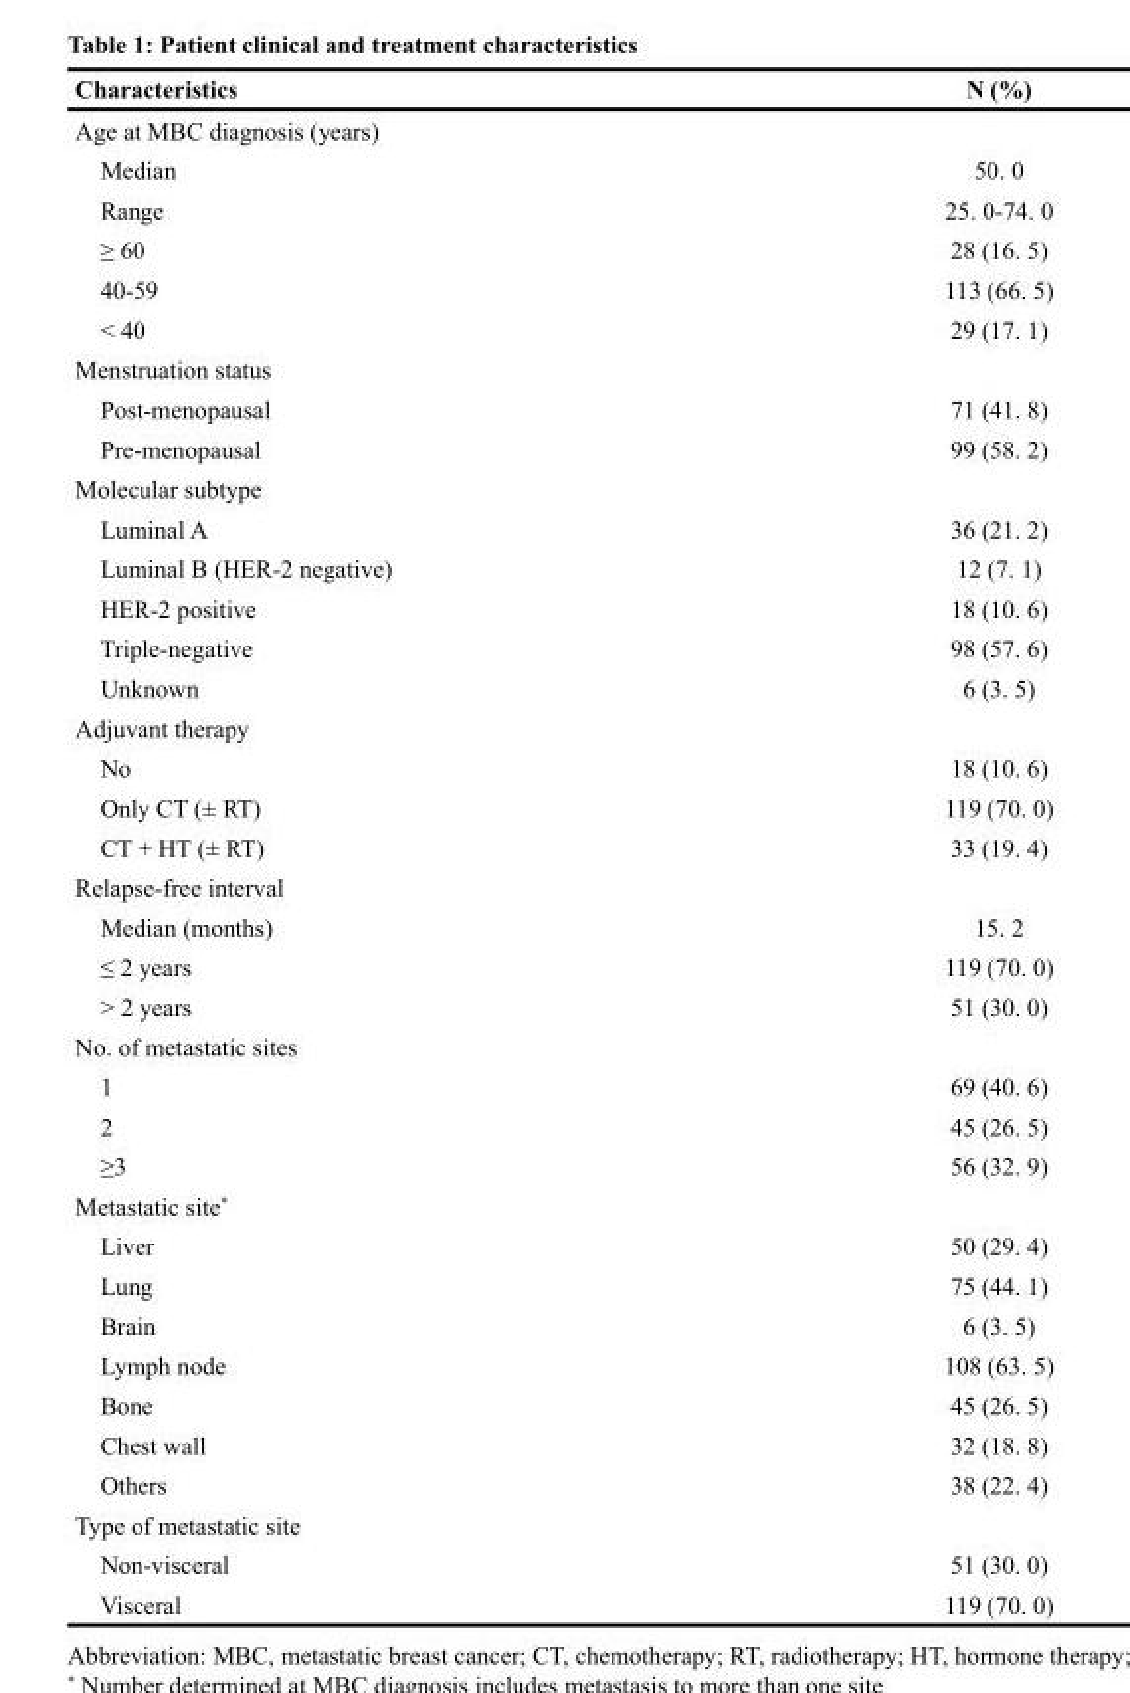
<table><thead><tr><td>Characteristics</td><td>N (%)</td></tr></thead><tbody><tr><td colspan="2">Age at MBC diagnosis (years)</td></tr><tr><td>Median</td><td>50. 0</td></tr><tr><td>Range</td><td>25. 0-74. 0</td></tr><tr><td>≥ 60</td><td>28 (16. 5)</td></tr><tr><td>40-59</td><td>113 (66. 5)</td></tr><tr><td>&lt; 40</td><td>29 (17. 1)</td></tr><tr><td colspan="2">Menstruation status</td></tr><tr><td>Post-menopausal</td><td>71 (41. 8)</td></tr><tr><td>Pre-menopausal</td><td>99 (58. 2)</td></tr><tr><td colspan="2">Molecular subtype</td></tr><tr><td>Luminal A</td><td>36 (21. 2)</td></tr><tr><td>Luminal B (HER-2 negative)</td><td>12 (7. 1)</td></tr><tr><td>HER-2 positive</td><td>18 (10. 6)</td></tr><tr><td>Triple-negative</td><td>98 (57. 6)</td></tr><tr><td>Unknown</td><td>6 (3. 5)</td></tr><tr><td colspan="2">Adjuvant therapy</td></tr><tr><td>No</td><td>18 (10. 6)</td></tr><tr><td>Only CT (± RT)</td><td>119 (70. 0)</td></tr><tr><td>CT + HT (± RT)</td><td>33 (19. 4)</td></tr><tr><td colspan="2">Relapse-free interval</td></tr><tr><td>Median (months)</td><td>15. 2</td></tr><tr><td>≤ 2 years</td><td>119 (70. 0)</td></tr><tr><td>&gt; 2 years</td><td>51 (30. 0)</td></tr><tr><td colspan="2">No. of metastatic sites</td></tr><tr><td>1</td><td>69 (40. 6)</td></tr><tr><td>2</td><td>45 (26. 5)</td></tr><tr><td>≥3</td><td>56 (32. 9)</td></tr><tr><td colspan="2">Metastatic site*</td></tr><tr><td>Liver</td><td>50 (29. 4)</td></tr><tr><td>Lung</td><td>75 (44. 1)</td></tr><tr><td>Brain</td><td>6 (3. 5)</td></tr><tr><td>Lymph node</td><td>108 (63. 5)</td></tr><tr><td>Bone</td><td>45 (26. 5)</td></tr><tr><td>Chest wall</td><td>32 (18. 8)</td></tr><tr><td>Others</td><td>38 (22. 4)</td></tr><tr><td colspan="2">Type of metastatic site</td></tr><tr><td>Non-visceral</td><td>51 (30. 0)</td></tr><tr><td>Visceral</td><td>119 (70. 0)</td></tr></tbody></table>